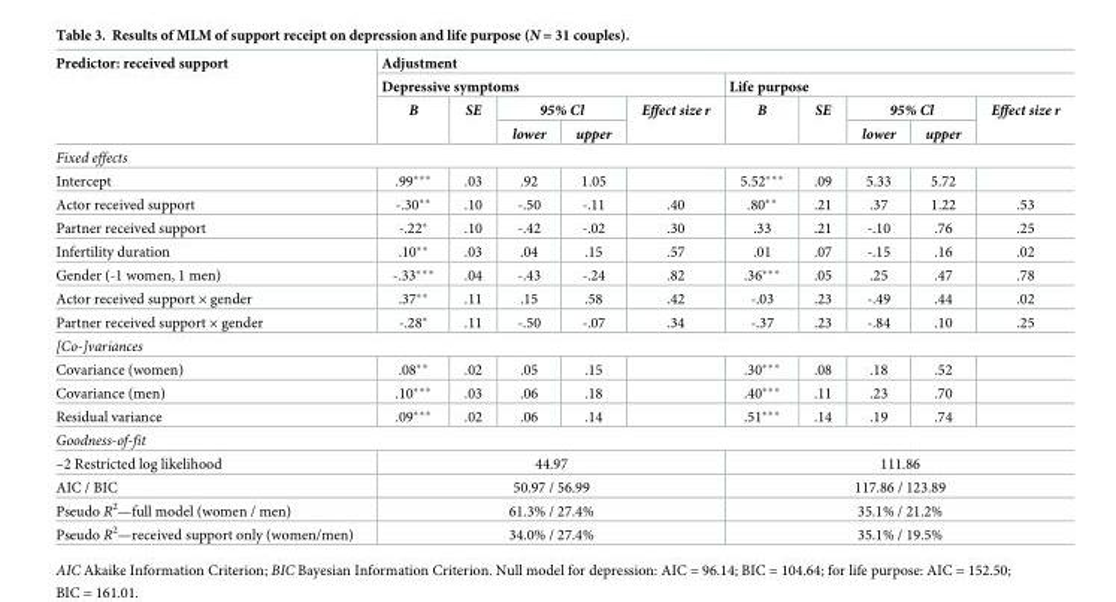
<table><thead><tr><td rowspan="4">Predictor: received support</td><td colspan="10">Adjustment</td></tr><tr><td colspan="5">Depressive symptoms</td><td colspan="5">Life purpose</td></tr><tr><td rowspan="2">B</td><td rowspan="2">SE</td><td colspan="2">95% Cl</td><td rowspan="2">Effect size r</td><td rowspan="2">B</td><td rowspan="2">SE</td><td colspan="2">95% Cl</td><td rowspan="2">Effect size r</td></tr><tr><td>lower</td><td>upper</td><td>lower</td><td>upper</td></tr></thead><tbody><tr><td colspan="11">Fixed effects</td></tr><tr><td>Intercept</td><td>.99***</td><td>.03</td><td>.92</td><td>1.05</td><td></td><td>5.52***</td><td>.09</td><td>5.33</td><td>5.72</td><td></td></tr><tr><td>Actor received support</td><td>-.30**</td><td>.10</td><td>-.50</td><td>-.11</td><td>.40</td><td>.80**</td><td>.21</td><td>.37</td><td>1.22</td><td>.53</td></tr><tr><td>Partner received support</td><td>-.22*</td><td>.10</td><td>-.42</td><td>-.02</td><td>.30</td><td>.33</td><td>.21</td><td>-.10</td><td>.76</td><td>.25</td></tr><tr><td>Infertility duration</td><td>.10**</td><td>.03</td><td>.04</td><td>.15</td><td>.57</td><td>.01</td><td>.07</td><td>-.15</td><td>.16</td><td>.02</td></tr><tr><td>Gender (-1 women, 1 men)</td><td>-.33***</td><td>.04</td><td>-.43</td><td>-.24</td><td>.82</td><td>.36***</td><td>.05</td><td>.25</td><td>.47</td><td>.78</td></tr><tr><td>Actor received support × gender</td><td>.37**</td><td>.11</td><td>.15</td><td>.58</td><td>.42</td><td>-.03</td><td>.23</td><td>-.49</td><td>.44</td><td>.02</td></tr><tr><td>Partner received support × gender</td><td>-.28*</td><td>.11</td><td>-.50</td><td>-.07</td><td>.34</td><td>-.37</td><td>.23</td><td>-.84</td><td>.10</td><td>.25</td></tr><tr><td colspan="11">[Co-]variances</td></tr><tr><td>Covariance (women)</td><td>.08**</td><td>.02</td><td>.05</td><td>.15</td><td></td><td>.30***</td><td>.08</td><td>.18</td><td>.52</td><td></td></tr><tr><td>Covariance (men)</td><td>.10***</td><td>.03</td><td>.06</td><td>.18</td><td></td><td>.40***</td><td>.11</td><td>.23</td><td>.70</td><td></td></tr><tr><td>Residual variance</td><td>.09***</td><td>.02</td><td>.06</td><td>.14</td><td></td><td>.51***</td><td>.14</td><td>.19</td><td>.74</td><td></td></tr><tr><td colspan="11">Goodness-of-fit</td></tr><tr><td>–2 Restricted log likelihood</td><td colspan="5">44.97</td><td colspan="5">111.86</td></tr><tr><td>AIC / BIC</td><td colspan="5">50.97 / 56.99</td><td colspan="5">117.86 / 123.89</td></tr><tr><td>Pseudo R<sup>2</sup>—full model (women / men)</td><td colspan="5">61.3% / 27.4%</td><td colspan="5">35.1% / 21.2%</td></tr><tr><td>Pseudo R<sup>2</sup>—received support only (women/men)</td><td colspan="5">34.0% / 27.4%</td><td colspan="5">35.1% / 19.5%</td></tr></tbody></table>